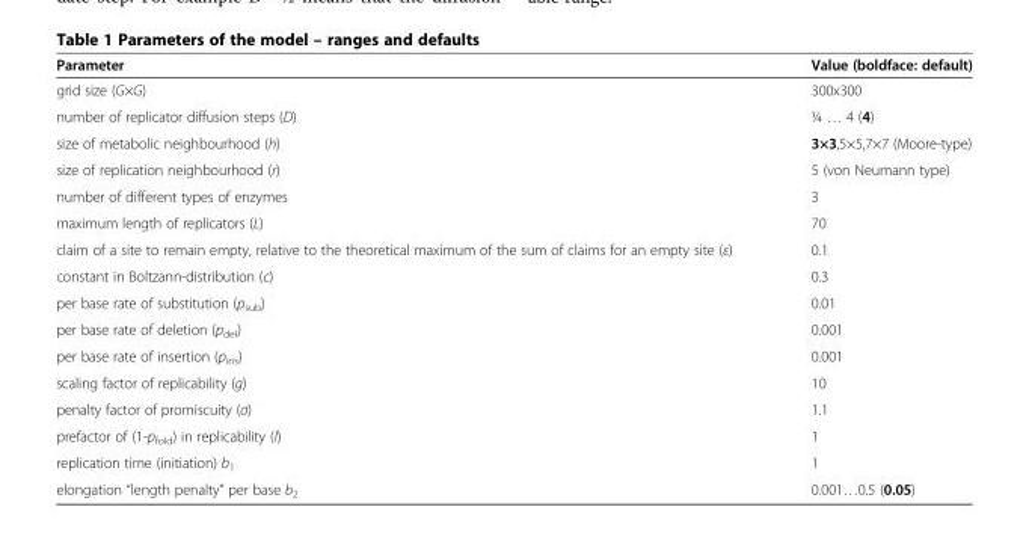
<table><thead><tr><td>Parameter</td><td>Value (boldface: default)</td></tr></thead><tbody><tr><td>grid size (G×G)</td><td>300x300</td></tr><tr><td>number of replicator diffusion steps (D)</td><td>¼ … 4 (4)</td></tr><tr><td>size of metabolic neighbourhood (h)</td><td>3×3,5×5,7×7 (Moore-type)</td></tr><tr><td>size of replication neighbourhood (r)</td><td>5 (von Neumann type)</td></tr><tr><td>number of different types of enzymes</td><td>3</td></tr><tr><td>maximum length of replicators (L)</td><td>70</td></tr><tr><td>claim of a site to remain empty, relative to the theoretical maximum of the sum of claims for an empty site (ε)</td><td>0.1</td></tr><tr><td>constant in Boltzann-distribution (c)</td><td>0.3</td></tr><tr><td>per base rate of substitution (p<sub>sub</sub>)</td><td>0.01</td></tr><tr><td>per base rate of deletion (p<sub>del</sub>)</td><td>0.001</td></tr><tr><td>per base rate of insertion (p<sub>ins</sub>)</td><td>0.001</td></tr><tr><td>scaling factor of replicability (g)</td><td>10</td></tr><tr><td>penalty factor of promiscuity (σ)</td><td>1.1</td></tr><tr><td>prefactor of (1-p<sub>fold</sub>) in replicability (l)</td><td>1</td></tr><tr><td>replication time (initiation) b<sub>1</sub></td><td>1</td></tr><tr><td>elongation “length penalty” per base b<sub>2</sub></td><td>0.001…0.5 (0.05)</td></tr></tbody></table>